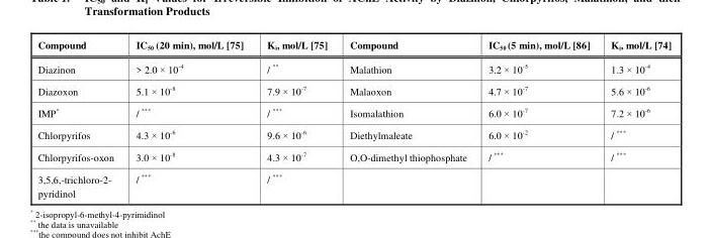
<table><thead><tr><td>Compound</td><td>IC<sub>50</sub> (20 min), mol/L [75]</td><td>K<sub>i</sub>, mol/L [75]</td><td>Compound</td><td>IC<sub>50</sub> (5 min), mol/L [86]</td><td>K<sub>i</sub>, mol/L [74]</td></tr></thead><tbody><tr><td>Diazinon</td><td>&gt; 2.0 × 10<sup>-4</sup></td><td>/ **</td><td>Malathion</td><td>3.2 × 10<sup>-5</sup></td><td>1.3 × 10<sup>-4</sup></td></tr><tr><td>Diazoxon</td><td>5.1 × 10<sup>-8</sup></td><td>7.9 × 10<sup>-7</sup></td><td>Malaoxon</td><td>4.7 × 10<sup>-7</sup></td><td>5.6 × 10<sup>-6</sup></td></tr><tr><td>IMP*</td><td>/ ***</td><td>/ ***</td><td>Isomalathion</td><td>6.0 × 10<sup>-7</sup></td><td>7.2 × 10<sup>-6</sup></td></tr><tr><td>Chlorpyrifos</td><td>4.3 × 10<sup>-6</sup></td><td>9.6 × 10<sup>-6</sup></td><td>Diethylmaleate</td><td>6.0 × 10<sup>-2</sup></td><td>/ ***</td></tr><tr><td>Chlorpyrifos-oxon</td><td>3.0 × 10<sup>-8</sup></td><td>4.3 × 10<sup>-7</sup></td><td>O,O-dimethyl thiophosphate</td><td>/ ***</td><td>/ ***</td></tr><tr><td>3,5,6,-trichloro-2- pyridinol</td><td>/ ***</td><td>/ ***</td><td></td><td></td><td></td></tr></tbody></table>